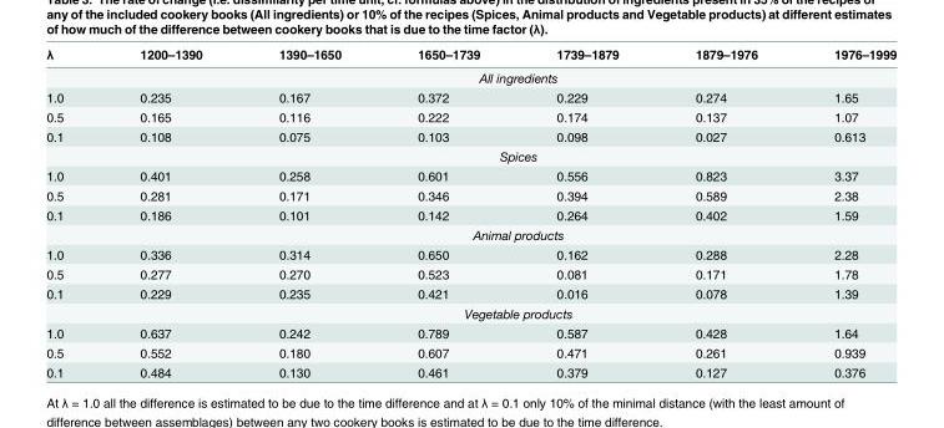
<table><thead><tr><td>λ</td><td>1200–1390</td><td>1390–1650</td><td>1650–1739</td><td>1739–1879</td><td>1879–1976</td><td>1976–1999</td></tr></thead><tbody><tr><td></td><td colspan="6">All ingredients</td></tr><tr><td>1.0</td><td>0.235</td><td>0.167</td><td>0.372</td><td>0.229</td><td>0.274</td><td>1.65</td></tr><tr><td>0.5</td><td>0.165</td><td>0.116</td><td>0.222</td><td>0.174</td><td>0.137</td><td>1.07</td></tr><tr><td rowspan="2">0.1</td><td>0.108</td><td>0.075</td><td>0.103</td><td>0.098</td><td>0.027</td><td>0.613</td></tr><tr><td colspan="6">Spices</td></tr><tr><td>1.0</td><td>0.401</td><td>0.258</td><td>0.601</td><td>0.556</td><td>0.823</td><td>3.37</td></tr><tr><td>0.5</td><td>0.281</td><td>0.171</td><td>0.346</td><td>0.394</td><td>0.589</td><td>2.38</td></tr><tr><td rowspan="2">0.1</td><td>0.186</td><td>0.101</td><td>0.142</td><td>0.264</td><td>0.402</td><td>1.59</td></tr><tr><td colspan="6">Animal products</td></tr><tr><td>1.0</td><td>0.336</td><td>0.314</td><td>0.650</td><td>0.162</td><td>0.288</td><td>2.28</td></tr><tr><td>0.5</td><td>0.277</td><td>0.270</td><td>0.523</td><td>0.081</td><td>0.171</td><td>1.78</td></tr><tr><td rowspan="2">0.1</td><td>0.229</td><td>0.235</td><td>0.421</td><td>0.016</td><td>0.078</td><td>1.39</td></tr><tr><td colspan="6">Vegetable products</td></tr><tr><td>1.0</td><td>0.637</td><td>0.242</td><td>0.789</td><td>0.587</td><td>0.428</td><td>1.64</td></tr><tr><td>0.5</td><td>0.552</td><td>0.180</td><td>0.607</td><td>0.471</td><td>0.261</td><td>0.939</td></tr><tr><td>0.1</td><td>0.484</td><td>0.130</td><td>0.461</td><td>0.379</td><td>0.127</td><td>0.376</td></tr></tbody></table>